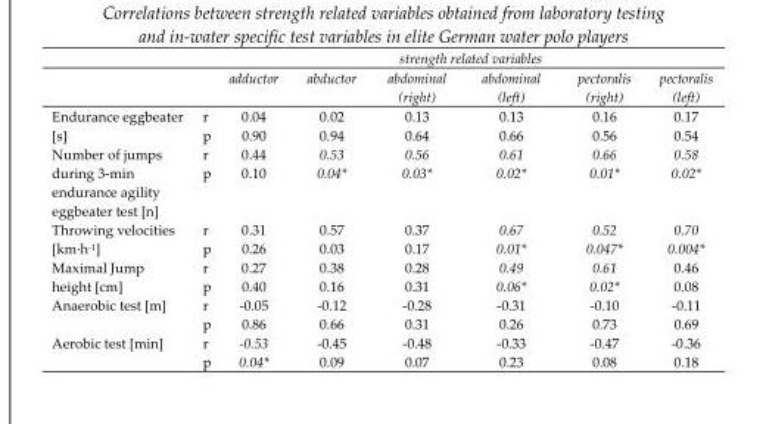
<table><thead><tr><td rowspan="2"></td><td rowspan="2"></td><td colspan="6">strength related variables</td></tr><tr><td>adductor</td><td>abductor</td><td>abdominal (right)</td><td>abdominal (left)</td><td>pectoralis (right)</td><td>pectoralis (left)</td></tr></thead><tbody><tr><td rowspan="2">Endurance eggbeater [s]</td><td>r</td><td>0.04</td><td>0.02</td><td>0.13</td><td>0.13</td><td>0.16</td><td>0.17</td></tr><tr><td>p</td><td>0.90</td><td>0.94</td><td>0.64</td><td>0.66</td><td>0.56</td><td>0.54</td></tr><tr><td rowspan="2">Number of jumps during 3-min endurance agility eggbeater test [n]</td><td>r</td><td>0.44</td><td>0.53</td><td>0.56</td><td>0.61</td><td>0.66</td><td>0.58</td></tr><tr><td>p</td><td>0.10</td><td>0.04*</td><td>0.03*</td><td>0.02*</td><td>0.01*</td><td>0.02*</td></tr><tr><td rowspan="2">Throwing velocities [km·h<sup>-1</sup>]</td><td>r</td><td>0.31</td><td>0.57</td><td>0.37</td><td>0.67</td><td>0.52</td><td>0.70</td></tr><tr><td>p</td><td>0.26</td><td>0.03</td><td>0.17</td><td>0.01*</td><td>0.047*</td><td>0.004*</td></tr><tr><td rowspan="2">Maximal Jump height [cm]</td><td>r</td><td>0.27</td><td>0.38</td><td>0.28</td><td>0.49</td><td>0.61</td><td>0.46</td></tr><tr><td>p</td><td>0.40</td><td>0.16</td><td>0.31</td><td>0.06*</td><td>0.02*</td><td>0.08</td></tr><tr><td rowspan="2">Anaerobic test [m]</td><td>r</td><td>-0.05</td><td>-0.12</td><td>-0.28</td><td>-0.31</td><td>-0.10</td><td>-0.11</td></tr><tr><td>p</td><td>0.86</td><td>0.66</td><td>0.31</td><td>0.26</td><td>0.73</td><td>0.69</td></tr><tr><td rowspan="2">Aerobic test [min]</td><td>r</td><td>-0.53</td><td>-0.45</td><td>-0.48</td><td>-0.33</td><td>-0.47</td><td>-0.36</td></tr><tr><td>p</td><td>0.04*</td><td>0.09</td><td>0.07</td><td>0.23</td><td>0.08</td><td>0.18</td></tr></tbody></table>